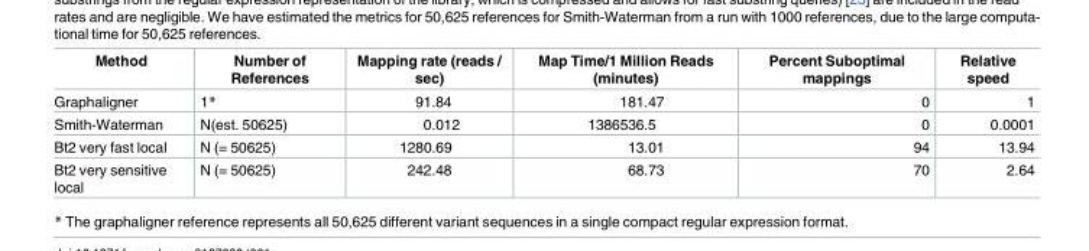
<table><thead><tr><td>Method</td><td>Number of References</td><td>Mapping rate (reads / sec)</td><td>Map Time/1 Million Reads (minutes)</td><td>Percent Suboptimal mappings</td><td>Relative speed</td></tr></thead><tbody><tr><td>Graphaligner</td><td>1*</td><td>91.84</td><td>181.47</td><td>0</td><td>1</td></tr><tr><td>Smith-Waterman</td><td>N(est. 50625)</td><td>0.012</td><td>1386536.5</td><td>0</td><td>0.0001</td></tr><tr><td>Bt2 very fast local</td><td>N (= 50625)</td><td>1280.69</td><td>13.01</td><td>94</td><td>13.94</td></tr><tr><td>Bt2 very sensitive local</td><td>N (= 50625)</td><td>242.48</td><td>68.73</td><td>70</td><td>2.64</td></tr></tbody></table>